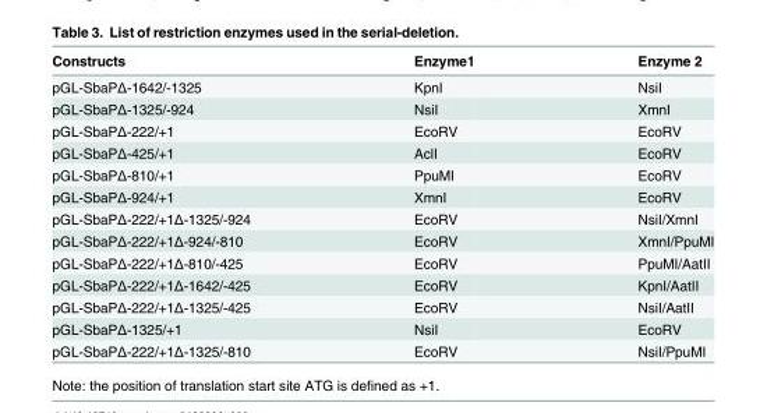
<table><thead><tr><td>Constructs</td><td>Enzyme1</td><td>Enzyme 2</td></tr></thead><tbody><tr><td>pGL-SbaPΔ-1642/-1325</td><td>KpnI</td><td>NsiI</td></tr><tr><td>pGL-SbaPΔ-1325/-924</td><td>NsiI</td><td>XmnI</td></tr><tr><td>pGL-SbaPΔ-222/+1</td><td>EcoRV</td><td>EcoRV</td></tr><tr><td>pGL-SbaPΔ-425/+1</td><td>AclI</td><td>EcoRV</td></tr><tr><td>pGL-SbaPΔ-810/+1</td><td>PpuMI</td><td>EcoRV</td></tr><tr><td>pGL-SbaPΔ-924/+1</td><td>XmnI</td><td>EcoRV</td></tr><tr><td>pGL-SbaPΔ-222/+1Δ-1325/-924</td><td>EcoRV</td><td>NsiI/XmnI</td></tr><tr><td>pGL-SbaPΔ-222/+1Δ-924/-810</td><td>EcoRV</td><td>XmnI/PpuMI</td></tr><tr><td>pGL-SbaPΔ-222/+1Δ-810/-425</td><td>EcoRV</td><td>PpuMI/AatII</td></tr><tr><td>pGL-SbaPΔ-222/+1Δ-1642/-425</td><td>EcoRV</td><td>KpnI/AatII</td></tr><tr><td>pGL-SbaPΔ-222/+1Δ-1325/-425</td><td>EcoRV</td><td>NsiI/AatII</td></tr><tr><td>pGL-SbaPΔ-1325/+1</td><td>NsiI</td><td>EcoRV</td></tr><tr><td>pGL-SbaPΔ-222/+1Δ-1325/-810</td><td>EcoRV</td><td>NsiI/PpuMI</td></tr></tbody></table>